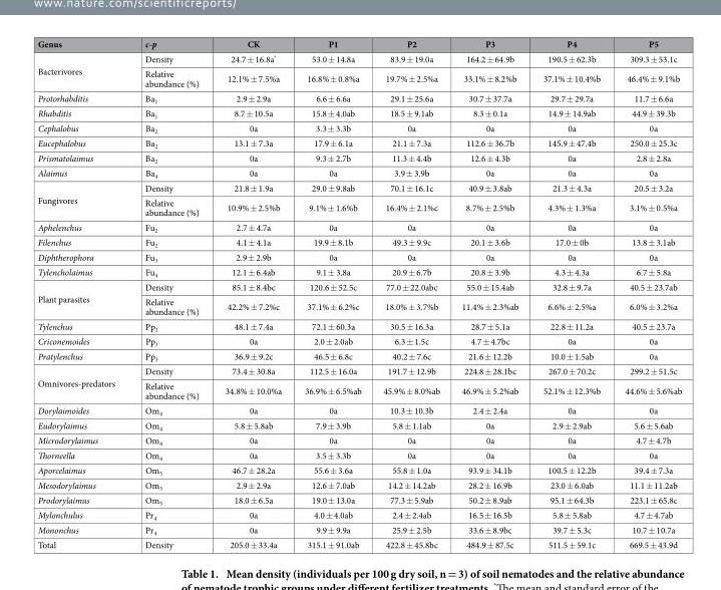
<table><thead><tr><td>Genus</td><td>c-p</td><td>CK</td><td>P1</td><td>P2</td><td>P3</td><td>P4</td><td>P5</td></tr></thead><tbody><tr><td rowspan="2">Bacterivores</td><td>Density</td><td>24.7 ± 16.8a*</td><td>53.0 ± 14.8a</td><td>83.9 ± 19.0a</td><td>164.2 ± 64.9b</td><td>190.5 ± 62.3b</td><td>309.3 ± 53.1c</td></tr><tr><td>Relative abundance (%)</td><td>12.1% ± 7.5%a</td><td>16.8% ± 0.8%a</td><td>19.7% ± 2.5%a</td><td>33.1% ± 8.2%b</td><td>37.1% ± 10.4%b</td><td>46.4% ± 9.1%b</td></tr><tr><td>Protorhabditis</td><td>Ba<sub>1</sub></td><td>2.9 ± 2.9a</td><td>6.6 ± 6.6a</td><td>29.1 ± 25.6a</td><td>30.7 ± 37.7a</td><td>29.7 ± 29.7a</td><td>11.7 ± 6.6a</td></tr><tr><td>Rhabditis</td><td>Ba<sub>1</sub></td><td>8.7 ± 10.5a</td><td>15.8 ± 4.0ab</td><td>18.5 ± 9.1ab</td><td>8.3 ± 0.1a</td><td>14.9 ± 14.9ab</td><td>44.9 ± 39.3b</td></tr><tr><td>Cephalobus</td><td>Ba<sub>2</sub></td><td>0a</td><td>3.3 ± 3.3b</td><td>0a</td><td>0a</td><td>0a</td><td>0a</td></tr><tr><td>Eucephalobus</td><td>Ba<sub>2</sub></td><td>13.1 ± 7.3a</td><td>17.9 ± 6.1a</td><td>21.1 ± 7.3a</td><td>112.6 ± 36.7b</td><td>145.9 ± 47.4b</td><td>250.0 ± 25.3c</td></tr><tr><td>Prismatolaimus</td><td>Ba<sub>2</sub></td><td>0a</td><td>9.3 ± 2.7b</td><td>11.3 ± 4.4b</td><td>12.6 ± 4.3b</td><td>0a</td><td>2.8 ± 2.8a</td></tr><tr><td>Alaimus</td><td>Ba<sub>4</sub></td><td>0a</td><td>0a</td><td>3.9 ± 3.9b</td><td>0a</td><td>0a</td><td>0a</td></tr><tr><td rowspan="2">Fungivores</td><td>Density</td><td>21.8 ± 1.9a</td><td>29.0 ± 9.8ab</td><td>70.1 ± 16.1c</td><td>40.9 ± 3.8ab</td><td>21.3 ± 4.3a</td><td>20.5 ± 3.2a</td></tr><tr><td>Relative abundance (%)</td><td>10.9% ± 2.5%b</td><td>9.1% ± 1.6%b</td><td>16.4% ± 2.1%c</td><td>8.7% ± 2.5%b</td><td>4.3% ± 1.3%a</td><td>3.1% ± 0.5%a</td></tr><tr><td>Aphelenchus</td><td>Fu<sub>2</sub></td><td>2.7 ± 4.7a</td><td>0a</td><td>0a</td><td>0a</td><td>0a</td><td>0a</td></tr><tr><td>Filenchus</td><td>Fu<sub>2</sub></td><td>4.1 ± 4.1a</td><td>19.9 ± 8.1b</td><td>49.3 ± 9.9c</td><td>20.1 ± 3.6b</td><td>17.0 ± 0b</td><td>13.8 ± 3.1ab</td></tr><tr><td>Diphtherophora</td><td>Fu<sub>3</sub></td><td>2.9 ± 2.9b</td><td>0a</td><td>0a</td><td>0a</td><td>0a</td><td>0a</td></tr><tr><td>Tylencholaimus</td><td>Fu<sub>4</sub></td><td>12.1 ± 6.4ab</td><td>9.1 ± 3.8a</td><td>20.9 ± 6.7b</td><td>20.8 ± 3.9b</td><td>4.3 ± 4.3a</td><td>6.7 ± 5.8a</td></tr><tr><td rowspan="2">Plant parasites</td><td>Density</td><td>85.1 ± 8.4bc</td><td>120.6 ± 52.5c</td><td>77.0 ± 22.0abc</td><td>55.0 ± 15.4ab</td><td>32.8 ± 9.7a</td><td>40.5 ± 23.7ab</td></tr><tr><td>Relative abundance (%)</td><td>42.2% ± 7.2%c</td><td>37.1% ± 6.2%c</td><td>18.0% ± 3.7%b</td><td>11.4% ± 2.3%ab</td><td>6.6% ± 2.5%a</td><td>6.0% ± 3.2%a</td></tr><tr><td>Tylenchus</td><td>Pp<sub>2</sub></td><td>48.1 ± 7.4a</td><td>72.1 ± 60.3a</td><td>30.5 ± 16.3a</td><td>28.7 ± 5.1a</td><td>22.8 ± 11.2a</td><td>40.5 ± 23.7a</td></tr><tr><td>Criconemoides</td><td>Pp<sub>3</sub></td><td>0a</td><td>2.0 ± 2.0ab</td><td>6.3 ± 1.5c</td><td>4.7 ± 4.7bc</td><td>0a</td><td>0a</td></tr><tr><td>Pratylenchus</td><td>Pp<sub>3</sub></td><td>36.9 ± 9.2c</td><td>46.5 ± 6.8c</td><td>40.2 ± 7.6c</td><td>21.6 ± 12.2b</td><td>10.0 ± 1.5ab</td><td>0a</td></tr><tr><td rowspan="2">Omnivores-predators</td><td>Density</td><td>73.4 ± 30.8a</td><td>112.5 ± 16.0a</td><td>191.7 ± 12.9b</td><td>224.8 ± 28.1bc</td><td>267.0 ± 70.2c</td><td>299.2 ± 51.5c</td></tr><tr><td>Relative abundance (%)</td><td>34.8% ± 10.0%a</td><td>36.9% ± 6.5%ab</td><td>45.9% ± 8.0%ab</td><td>46.9% ± 5.2%ab</td><td>52.1% ± 12.3%b</td><td>44.6% ± 5.6%ab</td></tr><tr><td>Dorylaimoides</td><td>Om<sub>4</sub></td><td>0a</td><td>0a</td><td>10.3 ± 10.3b</td><td>2.4 ± 2.4a</td><td>0a</td><td>0a</td></tr><tr><td>Eudorylaimus</td><td>Om<sub>4</sub></td><td>5.8 ± 5.8ab</td><td>7.9 ± 3.9b</td><td>5.8 ± 1.1ab</td><td>0a</td><td>2.9 ± 2.9ab</td><td>5.6 ± 5.6ab</td></tr><tr><td>Microdorylaimus</td><td>Om<sub>4</sub></td><td>0a</td><td>0a</td><td>0a</td><td>0a</td><td>0a</td><td>4.7 ± 4.7b</td></tr><tr><td>Thorneella</td><td>Om<sub>4</sub></td><td>0a</td><td>3.5 ± 3.3b</td><td>0a</td><td>0a</td><td>0a</td><td>0a</td></tr><tr><td>Aporcelaimus</td><td>Om<sub>5</sub></td><td>46.7 ± 28.2a</td><td>55.6 ± 3.6a</td><td>55.8 ± 1.0a</td><td>93.9 ± 34.1b</td><td>100.5 ± 12.2b</td><td>39.4 ± 7.3a</td></tr><tr><td>Mesodorylaimus</td><td>Om<sub>5</sub></td><td>2.9 ± 2.9a</td><td>12.6 ± 7.0ab</td><td>14.2 ± 14.2ab</td><td>28.2 ± 16.9b</td><td>23.0 ± 6.0ab</td><td>11.1 ± 11.2ab</td></tr><tr><td>Prodorylaimus</td><td>Om<sub>5</sub></td><td>18.0 ± 6.5a</td><td>19.0 ± 13.0a</td><td>77.3 ± 5.9ab</td><td>50.2 ± 8.9ab</td><td>95.1 ± 64.3b</td><td>223.1 ± 65.8c</td></tr><tr><td>Mylonchulus</td><td>Pr<sub>4</sub></td><td>0a</td><td>4.0 ± 4.0ab</td><td>2.4 ± 2.4ab</td><td>16.5 ± 16.5b</td><td>5.8 ± 5.8ab</td><td>4.7 ± 4.7ab</td></tr><tr><td>Mononchus</td><td>Pr<sub>4</sub></td><td>0a</td><td>9.9 ± 9.9a</td><td>25.9 ± 2.5b</td><td>33.6 ± 8.9bc</td><td>39.7 ± 5.3c</td><td>10.7 ± 10.7a</td></tr><tr><td>Total</td><td>Density</td><td>205.0 ± 33.4a</td><td>315.1 ± 91.0ab</td><td>422.8 ± 45.8bc</td><td>484.9 ± 87.5c</td><td>511.5 ± 59.1c</td><td>669.5 ± 43.9d</td></tr></tbody></table>